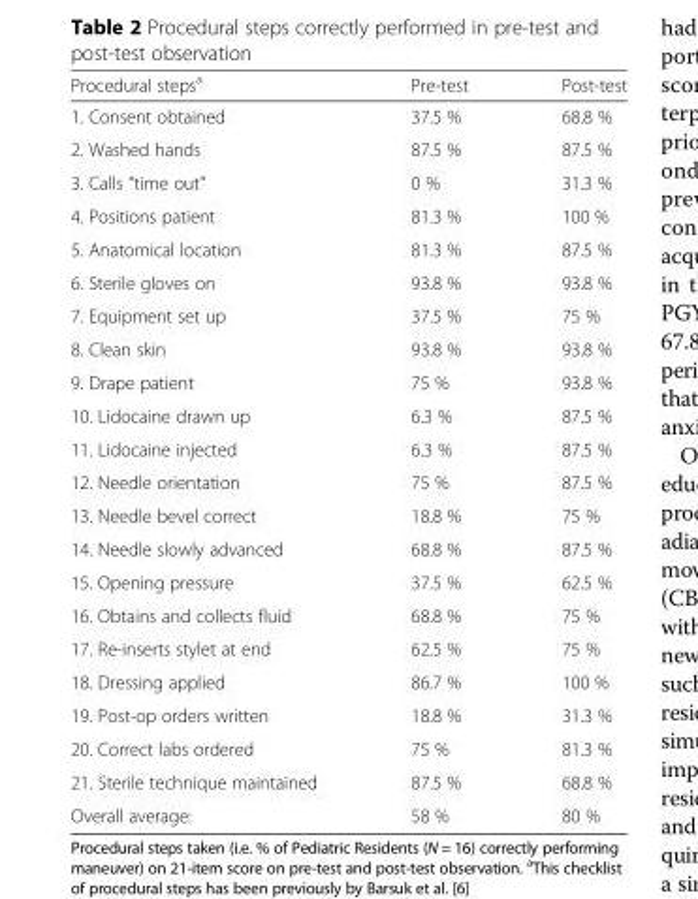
<table><thead><tr><td>Procedural steps<sup>a</sup></td><td>Pre-test</td><td>Post-test</td></tr></thead><tbody><tr><td>1. Consent obtained</td><td>37.5 %</td><td>68.8 %</td></tr><tr><td>2. Washed hands</td><td>87.5 %</td><td>87.5 %</td></tr><tr><td>3. Calls “time out”</td><td>0 %</td><td>31.3 %</td></tr><tr><td>4. Positions patient</td><td>81.3 %</td><td>100 %</td></tr><tr><td>5. Anatomical location</td><td>81.3 %</td><td>87.5 %</td></tr><tr><td>6. Sterile gloves on</td><td>93.8 %</td><td>93.8 %</td></tr><tr><td>7. Equipment set up</td><td>37.5 %</td><td>75 %</td></tr><tr><td>8. Clean skin</td><td>93.8 %</td><td>93.8 %</td></tr><tr><td>9. Drape patient</td><td>75 %</td><td>93.8 %</td></tr><tr><td>10. Lidocaine drawn up</td><td>6.3 %</td><td>87.5 %</td></tr><tr><td>11. Lidocaine injected</td><td>6.3 %</td><td>87.5 %</td></tr><tr><td>12. Needle orientation</td><td>75 %</td><td>87.5 %</td></tr><tr><td>13. Needle bevel correct</td><td>18.8 %</td><td>75 %</td></tr><tr><td>14. Needle slowly advanced</td><td>68.8 %</td><td>87.5 %</td></tr><tr><td>15. Opening pressure</td><td>37.5 %</td><td>62.5 %</td></tr><tr><td>16. Obtains and collects fluid</td><td>68.8 %</td><td>75 %</td></tr><tr><td>17. Re-inserts stylet at end</td><td>62.5 %</td><td>75 %</td></tr><tr><td>18. Dressing applied</td><td>86.7 %</td><td>100 %</td></tr><tr><td>19. Post-op orders written</td><td>18.8 %</td><td>31.3 %</td></tr><tr><td>20. Correct labs ordered</td><td>75 %</td><td>81.3 %</td></tr><tr><td>21. Sterile technique maintained</td><td>87.5 %</td><td>68.8 %</td></tr><tr><td>Overall average:</td><td>58 %</td><td>80 %</td></tr></tbody></table>